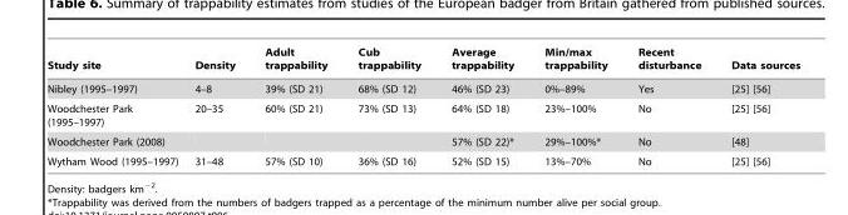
<table><thead><tr><td>Study site</td><td>Density</td><td>Adult trappability</td><td>Cub trappability</td><td>Average trappability</td><td>Min/max trappability</td><td>Recent disturbance</td><td>Data sources</td></tr></thead><tbody><tr><td>Nibley (1995–1997)</td><td>4–8</td><td>39% (SD 21)</td><td>68% (SD 12)</td><td>46% (SD 23)</td><td>0%–89%</td><td>Yes</td><td>[25] [56]</td></tr><tr><td>Woodchester Park (1995–1997)</td><td>20–35</td><td>60% (SD 21)</td><td>73% (SD 13)</td><td>64% (SD 18)</td><td>23%–100%</td><td>No</td><td>[25] [56]</td></tr><tr><td>Woodchester Park (2008)</td><td></td><td></td><td></td><td>57% (SD 22)*</td><td>29%–100%*</td><td>No</td><td>[48]</td></tr><tr><td>Wytham Wood (1995–1997)</td><td>31–48</td><td>57% (SD 10)</td><td>36% (SD 16)</td><td>52% (SD 15)</td><td>13%–70%</td><td>No</td><td>[25] [56]</td></tr></tbody></table>